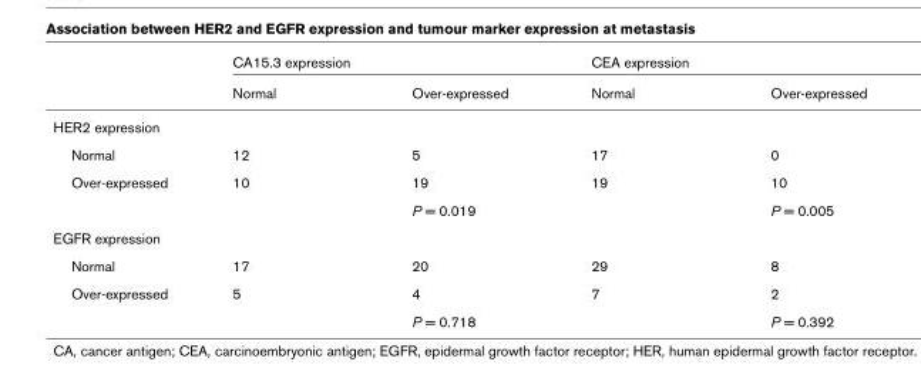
<table><thead><tr><td rowspan="2"></td><td colspan="2">CA15.3 expression</td><td colspan="2">CEA expression</td></tr><tr><td>Normal</td><td>Over-expressed</td><td>Normal</td><td>Over-expressed</td></tr></thead><tbody><tr><td colspan="5">HER2 expression</td></tr><tr><td>Normal</td><td>12</td><td>5</td><td>17</td><td>0</td></tr><tr><td rowspan="2">Over-expressed</td><td>10</td><td>19</td><td>19</td><td>10</td></tr><tr><td></td><td>P = 0.019</td><td></td><td>P = 0.005</td></tr><tr><td colspan="5">EGFR expression</td></tr><tr><td>Normal</td><td>17</td><td>20</td><td>29</td><td>8</td></tr><tr><td rowspan="2">Over-expressed</td><td>5</td><td>4</td><td>7</td><td>2</td></tr><tr><td></td><td>P = 0.718</td><td></td><td>P = 0.392</td></tr></tbody></table>